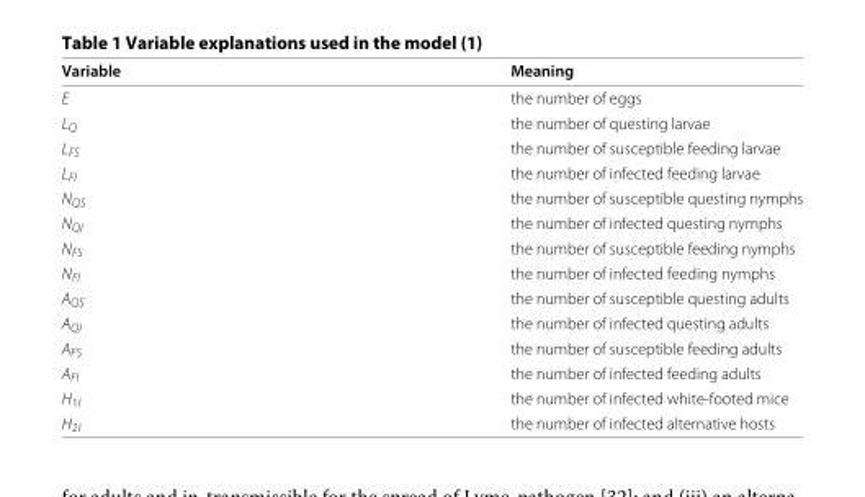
<table><thead><tr><td>Variable</td><td>Meaning</td></tr></thead><tbody><tr><td>E</td><td>the number of eggs</td></tr><tr><td>L<sub>Q</sub></td><td>the number of questing larvae</td></tr><tr><td>L<sub>FS</sub></td><td>the number of susceptible feeding larvae</td></tr><tr><td>L<sub>FI</sub></td><td>the number of infected feeding larvae</td></tr><tr><td>N<sub>QS</sub></td><td>the number of susceptible questing nymphs</td></tr><tr><td>N<sub>QI</sub></td><td>the number of infected questing nymphs</td></tr><tr><td>N<sub>FS</sub></td><td>the number of susceptible feeding nymphs</td></tr><tr><td>N<sub>FI</sub></td><td>the number of infected feeding nymphs</td></tr><tr><td>A<sub>QS</sub></td><td>the number of susceptible questing adults</td></tr><tr><td>A<sub>QI</sub></td><td>the number of infected questing adults</td></tr><tr><td>A<sub>FS</sub></td><td>the number of susceptible feeding adults</td></tr><tr><td>A<sub>FI</sub></td><td>the number of infected feeding adults</td></tr><tr><td>H<sub>1I</sub></td><td>the number of infected white-footed mice</td></tr><tr><td>H<sub>2I</sub></td><td>the number of infected alternative hosts</td></tr></tbody></table>